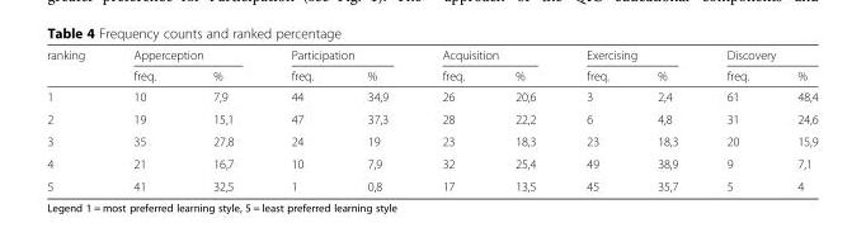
<table><thead><tr><td rowspan="2">ranking</td><td colspan="2">Apperception</td><td colspan="2">Participation</td><td colspan="2">Acquisition</td><td colspan="2">Exercising</td><td colspan="2">Discovery</td></tr><tr><td>freq.</td><td>%</td><td>freq.</td><td>%</td><td>freq.</td><td>%</td><td>freq.</td><td>%</td><td>freq.</td><td>%</td></tr></thead><tbody><tr><td>1</td><td>10</td><td>7,9</td><td>44</td><td>34,9</td><td>26</td><td>20,6</td><td>3</td><td>2,4</td><td>61</td><td>48,4</td></tr><tr><td>2</td><td>19</td><td>15,1</td><td>47</td><td>37,3</td><td>28</td><td>22,2</td><td>6</td><td>4,8</td><td>31</td><td>24,6</td></tr><tr><td>3</td><td>35</td><td>27,8</td><td>24</td><td>19</td><td>23</td><td>18,3</td><td>23</td><td>18,3</td><td>20</td><td>15,9</td></tr><tr><td>4</td><td>21</td><td>16,7</td><td>10</td><td>7,9</td><td>32</td><td>25,4</td><td>49</td><td>38,9</td><td>9</td><td>7,1</td></tr><tr><td>5</td><td>41</td><td>32,5</td><td>1</td><td>0,8</td><td>17</td><td>13,5</td><td>45</td><td>35,7</td><td>5</td><td>4</td></tr></tbody></table>